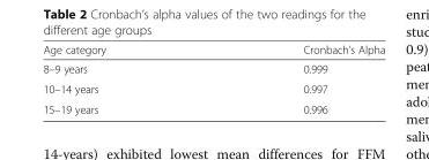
<table><thead><tr><td>Age category</td><td>Cronbach’s Alpha</td></tr></thead><tbody><tr><td>8–9 years</td><td>0.999</td></tr><tr><td>10–14 years</td><td>0.997</td></tr><tr><td>15–19 years</td><td>0.996</td></tr></tbody></table>